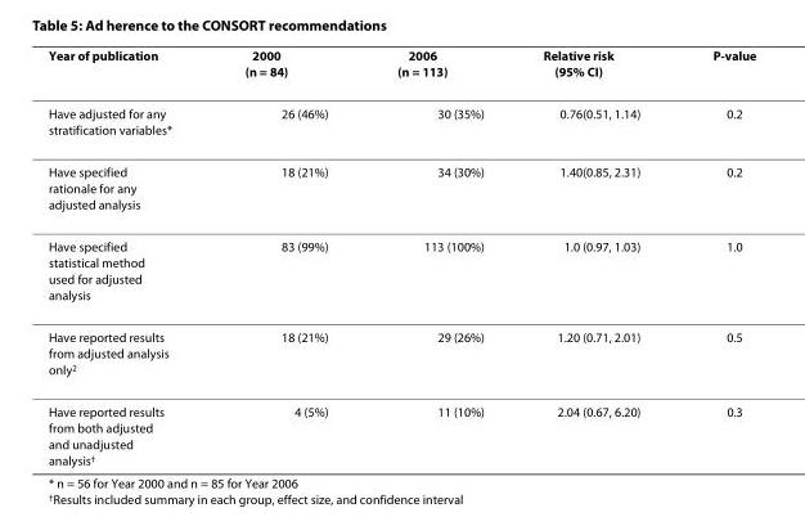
<table><thead><tr><td>Year of publication</td><td>2000 (n = 84)</td><td>2006 (n = 113)</td><td>Relative risk (95% CI)</td><td>P-value</td></tr></thead><tbody><tr><td>Have adjusted for any stratification variables*</td><td>26 (46%)</td><td>30 (35%)</td><td>0.76(0.51, 1.14)</td><td>0.2</td></tr><tr><td>Have specified rationale for any adjusted analysis</td><td>18 (21%)</td><td>34 (30%)</td><td>1.40(0.85, 2.31)</td><td>0.2</td></tr><tr><td>Have specified statistical method used for adjusted analysis</td><td>83 (99%)</td><td>113 (100%)</td><td>1.0 (0.97, 1.03)</td><td>1.0</td></tr><tr><td>Have reported results from adjusted analysis only<sup>2</sup></td><td>18 (21%)</td><td>29 (26%)</td><td>1.20 (0.71, 2.01)</td><td>0.5</td></tr><tr><td>Have reported results from both adjusted and unadjusted analysis<sup>†</sup></td><td>4 (5%)</td><td>11 (10%)</td><td>2.04 (0.67, 6.20)</td><td>0.3</td></tr></tbody></table>